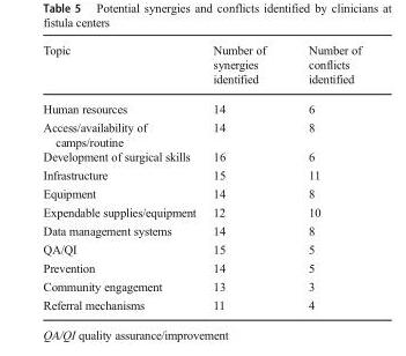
<table><thead><tr><td>Topic</td><td>Number of synergies identified</td><td>Number of conflicts identified</td></tr></thead><tbody><tr><td>Human resources</td><td>14</td><td>6</td></tr><tr><td>Access/availability of camps/routine</td><td>14</td><td>8</td></tr><tr><td>Development of surgical skills</td><td>16</td><td>6</td></tr><tr><td>Infrastructure</td><td>15</td><td>11</td></tr><tr><td>Equipment</td><td>14</td><td>8</td></tr><tr><td>Expendable supplies/equipment</td><td>12</td><td>10</td></tr><tr><td>Data management systems</td><td>14</td><td>8</td></tr><tr><td>QA/QI</td><td>15</td><td>5</td></tr><tr><td>Prevention</td><td>14</td><td>5</td></tr><tr><td>Community engagement</td><td>13</td><td>3</td></tr><tr><td>Referral mechanisms</td><td>11</td><td>4</td></tr></tbody></table>